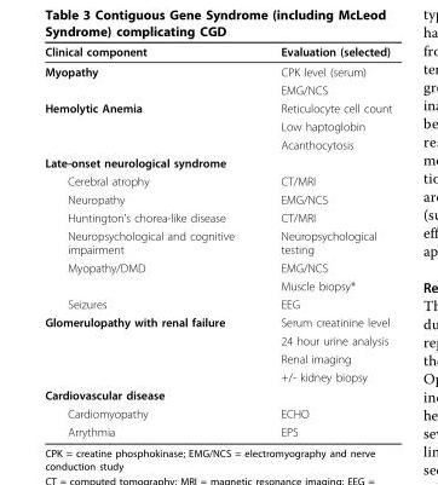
<table><thead><tr><td>Clinical component</td><td>Evaluation (selected)</td></tr></thead><tbody><tr><td rowspan="2">Myopathy</td><td>CPK level (serum)</td></tr><tr><td>EMG/NCS</td></tr><tr><td rowspan="3">Hemolytic Anemia</td><td>Reticulocyte cell count</td></tr><tr><td>Low haptoglobin</td></tr><tr><td>Acanthocytosis</td></tr><tr><td colspan="2">Late-onset neurological syndrome</td></tr><tr><td>Cerebral atrophy</td><td>CT/MRI</td></tr><tr><td>Neuropathy</td><td>EMG/NCS</td></tr><tr><td>Huntington’s chorea-like disease</td><td>CT/MRI</td></tr><tr><td>Neuropsychological and cognitive impairment</td><td>Neuropsychological testing</td></tr><tr><td rowspan="2">Myopathy/DMD</td><td>EMG/NCS</td></tr><tr><td>Muscle biopsy*</td></tr><tr><td>Seizures</td><td>EEG</td></tr><tr><td rowspan="4">Glomerulopathy with renal failure</td><td>Serum creatinine level</td></tr><tr><td>24 hour urine analysis</td></tr><tr><td>Renal imaging</td></tr><tr><td>+/- kidney biopsy</td></tr><tr><td colspan="2">Cardiovascular disease</td></tr><tr><td>Cardiomyopathy</td><td>ECHO</td></tr><tr><td>Arrythmia</td><td>EPS</td></tr></tbody></table>